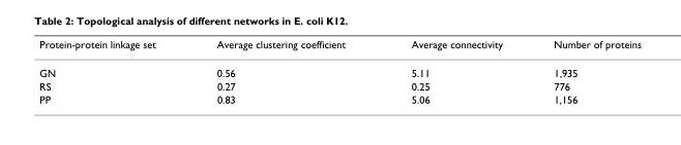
<table><thead><tr><td>Protein-protein linkage set</td><td>Average clustering coefficient</td><td>Average connectivity</td><td>Number of proteins</td></tr></thead><tbody><tr><td>GN</td><td>0.56</td><td>5.11</td><td>1,935</td></tr><tr><td>RS</td><td>0.27</td><td>0.25</td><td>776</td></tr><tr><td>PP</td><td>0.83</td><td>5.06</td><td>1,156</td></tr></tbody></table>